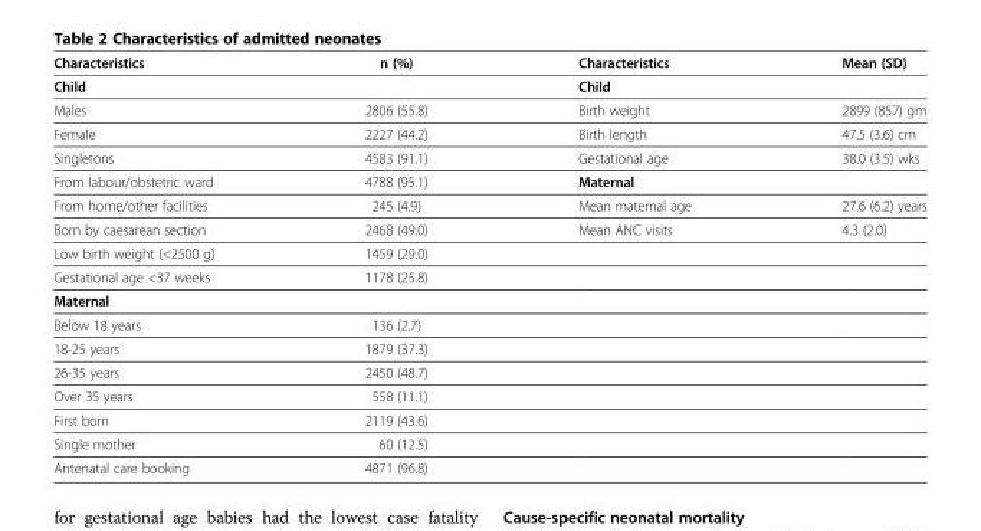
<table><thead><tr><td>Characteristics</td><td>n (%)</td><td>Characteristics</td><td>Mean (SD)</td></tr></thead><tbody><tr><td>Child</td><td></td><td>Child</td><td></td></tr><tr><td>Males</td><td>2806 (55.8)</td><td>Birth weight</td><td>2899 (857) gm</td></tr><tr><td>Female</td><td>2227 (44.2)</td><td>Birth length</td><td>47.5 (3.6) cm</td></tr><tr><td>Singletons</td><td>4583 (91.1)</td><td>Gestational age</td><td>38.0 (3.5) wks</td></tr><tr><td>From labour/obstetric ward</td><td>4788 (95.1)</td><td>Maternal</td><td></td></tr><tr><td>From home/other facilities</td><td>245 (4.9)</td><td>Mean maternal age</td><td>27.6 (6.2) years</td></tr><tr><td>Born by caesarean section</td><td>2468 (49.0)</td><td>Mean ANC visits</td><td>4.3 (2.0)</td></tr><tr><td>Low birth weight (&lt;2500 g)</td><td>1459 (29.0)</td><td></td><td></td></tr><tr><td>Gestational age &lt;37 weeks</td><td>1178 (25.8)</td><td></td><td></td></tr><tr><td colspan="4">Maternal</td></tr><tr><td>Below 18 years</td><td>136 (2.7)</td><td></td><td></td></tr><tr><td>18-25 years</td><td>1879 (37.3)</td><td></td><td></td></tr><tr><td>26-35 years</td><td>2450 (48.7)</td><td></td><td></td></tr><tr><td>Over 35 years</td><td>558 (11.1)</td><td></td><td></td></tr><tr><td>First born</td><td>2119 (43.6)</td><td></td><td></td></tr><tr><td>Single mother</td><td>60 (12.5)</td><td></td><td></td></tr><tr><td>Antenatal care booking</td><td>4871 (96.8)</td><td></td><td></td></tr></tbody></table>